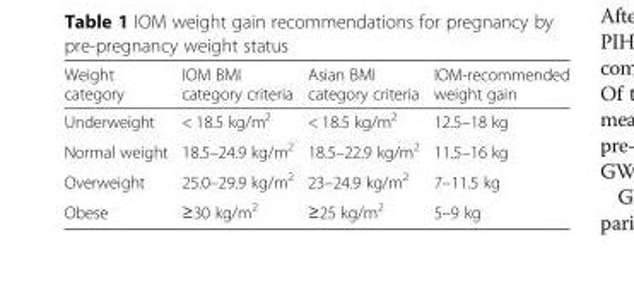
<table><thead><tr><td>Weight category</td><td>IOM BMI category criteria</td><td>Asian BMI category criteria</td><td>IOM-recommended weight gain</td></tr></thead><tbody><tr><td>Underweight</td><td>&lt; 18.5 kg/m<sup>2</sup></td><td>&lt; 18.5 kg/m<sup>2</sup></td><td>12.5–18 kg</td></tr><tr><td>Normal weight</td><td>18.5–24.9 kg/m<sup>2</sup></td><td>18.5–22.9 kg/m<sup>2</sup></td><td>11.5–16 kg</td></tr><tr><td>Overweight</td><td>25.0–29.9 kg/m<sup>2</sup></td><td>23–24.9 kg/m<sup>2</sup></td><td>7–11.5 kg</td></tr><tr><td>Obese</td><td>≥30 kg/m<sup>2</sup></td><td>≥25 kg/m<sup>2</sup></td><td>5–9 kg</td></tr></tbody></table>